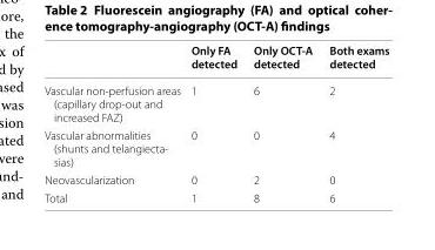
<table><thead><tr><td></td><td>Only FA detected</td><td>Only OCT-A detected</td><td>Both exams detected</td></tr></thead><tbody><tr><td>Vascular non‑perfusion areas (capillary drop‑out and increased FAZ)</td><td>1</td><td>6</td><td>2</td></tr><tr><td>Vascular abnormalities (shunts and telangiecta‑ sias)</td><td>0</td><td>0</td><td>4</td></tr><tr><td>Neovascularization</td><td>0</td><td>2</td><td>0</td></tr><tr><td>Total</td><td>1</td><td>8</td><td>6</td></tr></tbody></table>